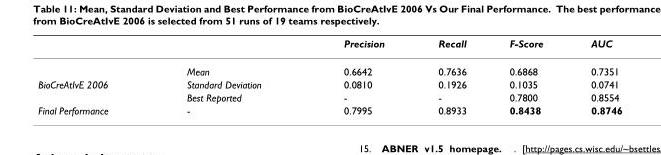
<table><thead><tr><td></td><td></td><td>Precision</td><td>Recall</td><td>F-Score</td><td>AUC</td></tr></thead><tbody><tr><td></td><td>Mean</td><td>0.6642</td><td>0.7636</td><td>0.6868</td><td>0.7351</td></tr><tr><td rowspan="2">BioCreAtIvE 2006</td><td>Standard Deviation</td><td>0.0810</td><td>0.1926</td><td>0.1035</td><td>0.0741</td></tr><tr><td>Best Reported</td><td>-</td><td>-</td><td>0.7800</td><td>0.8554</td></tr><tr><td>Final Performance</td><td>-</td><td>0.7995</td><td>0.8933</td><td>0.8438</td><td>0.8746</td></tr></tbody></table>